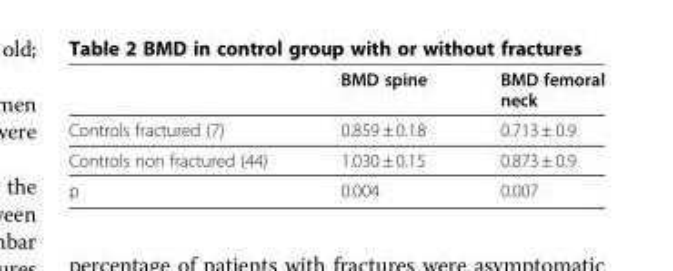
<table><thead><tr><td></td><td>BMD spine</td><td>BMD femoral neck</td></tr></thead><tbody><tr><td>Controls fractured (7)</td><td>0.859 ± 0.18</td><td>0.713 ± 0.9</td></tr><tr><td>Controls non fractured (44)</td><td>1.030 ± 0.15</td><td>0.873 ± 0.9</td></tr><tr><td>p</td><td>0.004</td><td>0.007</td></tr></tbody></table>